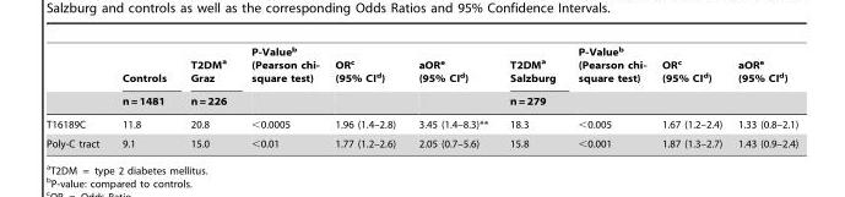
<table><thead><tr><td rowspan="2"></td><td rowspan="2">Controls n = 1481</td><td rowspan="2">T2DM<sup>a</sup> Graz n = 226</td><td rowspan="2">P-Value<sup>b</sup> (Pearson chi- square test)</td><td rowspan="2">OR<sup>c</sup> (95% CI<sup>d</sup>)</td><td rowspan="2">aOR<sup>e</sup> (95% CI<sup>d</sup>)</td><td rowspan="2">T2DM<sup>a</sup> Salzburg n = 279</td><td rowspan="2">P-Value<sup>b</sup> (Pearson chi- square test)</td><td rowspan="2">OR<sup>c</sup> (95% CI<sup>d</sup>)</td><td rowspan="2">aOR<sup>e</sup> (95% CI<sup>d</sup>)</td></tr><tr></tr></thead><tbody><tr><td>T16189C</td><td>11.8</td><td>20.8</td><td>&lt;0.0005</td><td>1.96 (1.4–2.8)</td><td>3.45 (1.4–8.3)**</td><td>18.3</td><td>&lt;0.005</td><td>1.67 (1.2–2.4)</td><td>1.33 (0.8–2.1)</td></tr><tr><td>Poly-C tract</td><td>9.1</td><td>15.0</td><td>&lt;0.01</td><td>1.77 (1.2–2.6)</td><td>2.05 (0.7–5.6)</td><td>15.8</td><td>&lt;0.001</td><td>1.87 (1.3–2.7)</td><td>1.43 (0.9–2.4)</td></tr></tbody></table>